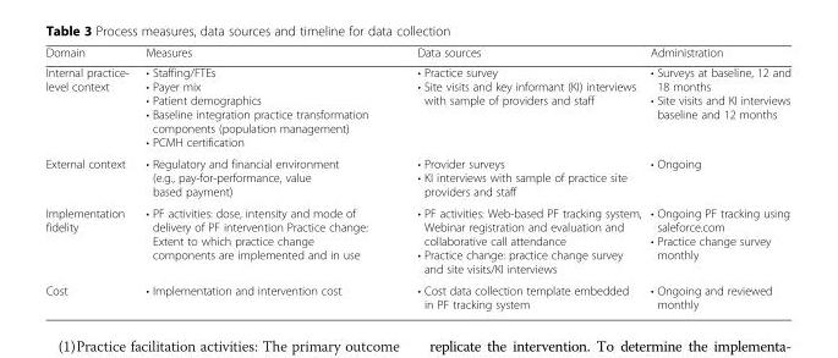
<table><thead><tr><td>Domain</td><td>Measures</td><td>Data sources</td><td>Administration</td></tr></thead><tbody><tr><td>Internal practice- level context</td><td>• Staffing/FTEs • Payer mix • Patient demographics • Baseline integration practice transformation components (population management) • PCMH certification</td><td>• Practice survey • Site visits and key informant (KI) interviews with sample of providers and staff</td><td>• Surveys at baseline, 12 and 18 months • Site visits and KI interviews baseline and 12 months</td></tr><tr><td>External context</td><td>• Regulatory and financial environment (e.g., pay-for-performance, value based payment)</td><td>• Provider surveys • KI interviews with sample of practice site providers and staff</td><td>• Ongoing</td></tr><tr><td>Implementation fidelity</td><td>• PF activities: dose, intensity and mode of delivery of PF intervention Practice change: Extent to which practice change components are implemented and in use</td><td>• PF activities: Web-based PF tracking system, Webinar registration and evaluation and collaborative call attendance • Practice change: practice change survey and site visits/KI interviews</td><td>• Ongoing PF tracking using saleforce.com • Practice change survey monthly</td></tr><tr><td>Cost</td><td>• Implementation and intervention cost</td><td>• Cost data collection template embedded in PF tracking system</td><td>• Ongoing and reviewed monthly</td></tr></tbody></table>